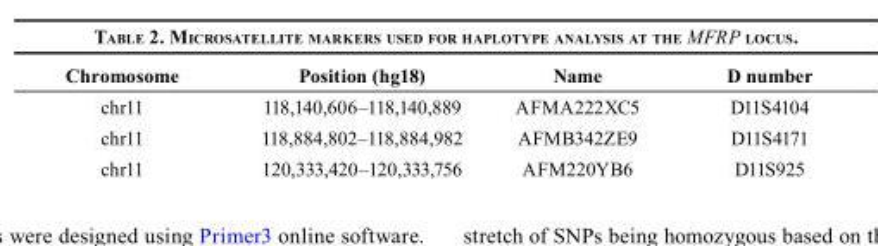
<table><thead><tr><td>Chromosome</td><td>Position (hg18)</td><td>Name</td><td>D number</td></tr></thead><tbody><tr><td>chr11</td><td>118,140,606–118,140,889</td><td>AFMA222XC5</td><td>D11S4104</td></tr><tr><td>chr11</td><td>118,884,802–118,884,982</td><td>AFMB342ZE9</td><td>D11S4171</td></tr><tr><td>chr11</td><td>120,333,420–120,333,756</td><td>AFM220YB6</td><td>D11S925</td></tr></tbody></table>